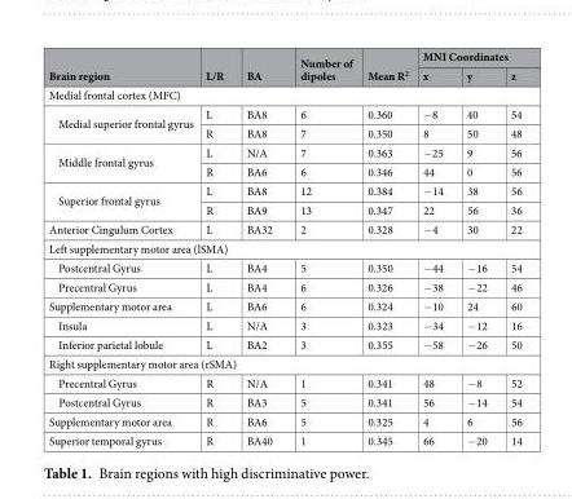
<table><thead><tr><td rowspan="2">Brain region</td><td rowspan="2">L/R</td><td rowspan="2">BA</td><td rowspan="2">Number of dipoles</td><td rowspan="2">Mean R<sup>2</sup></td><td colspan="3">MNI Coordinates</td></tr><tr><td>x</td><td>y</td><td>z</td></tr></thead><tbody><tr><td colspan="8">Medial frontal cortex (MFC)</td></tr><tr><td rowspan="2">Medial superior frontal gyrus</td><td>L</td><td>BA8</td><td>6</td><td>0.360</td><td>−8</td><td>40</td><td>54</td></tr><tr><td>R</td><td>BA8</td><td>7</td><td>0.350</td><td>8</td><td>50</td><td>48</td></tr><tr><td rowspan="2">Middle frontal gyrus</td><td>L</td><td>N/A</td><td>7</td><td>0.363</td><td>−25</td><td>9</td><td>56</td></tr><tr><td>R</td><td>BA6</td><td>6</td><td>0.346</td><td>44</td><td>0</td><td>56</td></tr><tr><td rowspan="2">Superior frontal gyrus</td><td>L</td><td>BA8</td><td>12</td><td>0.384</td><td>−14</td><td>38</td><td>56</td></tr><tr><td>R</td><td>BA9</td><td>13</td><td>0.347</td><td>22</td><td>56</td><td>36</td></tr><tr><td>Anterior Cingulum Cortex</td><td>L</td><td>BA32</td><td>2</td><td>0.328</td><td>−4</td><td>30</td><td>22</td></tr><tr><td colspan="8">Left supplementary motor area (lSMA)</td></tr><tr><td>Postcentral Gyrus</td><td>L</td><td>BA4</td><td>5</td><td>0.350</td><td>−44</td><td>−16</td><td>54</td></tr><tr><td>Precentral Gyrus</td><td>L</td><td>BA4</td><td>6</td><td>0.326</td><td>−38</td><td>−22</td><td>46</td></tr><tr><td>Supplementary motor area</td><td>L</td><td>BA6</td><td>6</td><td>0.324</td><td>−10</td><td>24</td><td>60</td></tr><tr><td>Insula</td><td>L</td><td>N/A</td><td>3</td><td>0.323</td><td>−34</td><td>−12</td><td>16</td></tr><tr><td>Inferior parietal lobule</td><td>L</td><td>BA2</td><td>3</td><td>0.355</td><td>−58</td><td>−26</td><td>50</td></tr><tr><td colspan="8">Right supplementary motor area (rSMA)</td></tr><tr><td>Precentral Gyrus</td><td>R</td><td>N/A</td><td>1</td><td>0.341</td><td>48</td><td>−8</td><td>52</td></tr><tr><td>Postcentral Gyrus</td><td>R</td><td>BA3</td><td>5</td><td>0.341</td><td>56</td><td>−14</td><td>54</td></tr><tr><td>Supplementary motor area</td><td>R</td><td>BA6</td><td>5</td><td>0.325</td><td>4</td><td>6</td><td>56</td></tr><tr><td>Superior temporal gyrus</td><td>R</td><td>BA40</td><td>1</td><td>0.345</td><td>66</td><td>−20</td><td>14</td></tr></tbody></table>